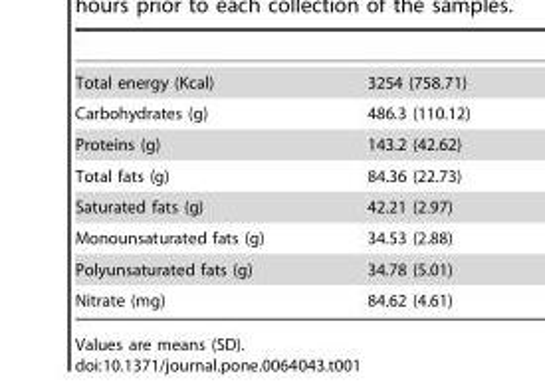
<table><tbody><tr><td>Total energy (Kcal)</td><td>3254 (758.71)</td></tr><tr><td>Carbohydrates (g)</td><td>486.3 (110.12)</td></tr><tr><td>Proteins (g)</td><td>143.2 (42.62)</td></tr><tr><td>Total fats (g)</td><td>84.36 (22.73)</td></tr><tr><td>Saturated fats (g)</td><td>42.21 (2.97)</td></tr><tr><td>Monounsaturated fats (g)</td><td>34.53 (2.88)</td></tr><tr><td>Polyunsaturated fats (g)</td><td>34.78 (5.01)</td></tr><tr><td>Nitrate (mg)</td><td>84.62 (4.61)</td></tr></tbody></table>